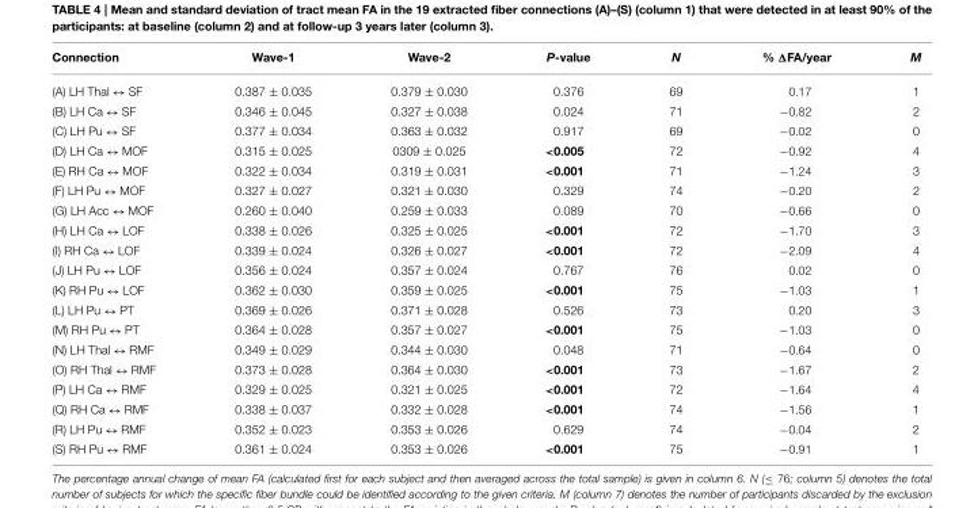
<table><thead><tr><td>Connection</td><td>Wave-1</td><td>Wave-2</td><td>P-value</td><td>N</td><td>% ΔFA/year</td><td>M</td></tr></thead><tbody><tr><td>(A) LH Thal ↔ SF</td><td>0.387 ± 0.035</td><td>0.379 ± 0.030</td><td>0.376</td><td>69</td><td>0.17</td><td>1</td></tr><tr><td>(B) LH Ca ↔ SF</td><td>0.346 ± 0.045</td><td>0.327 ± 0.038</td><td>0.024</td><td>71</td><td>−0.82</td><td>2</td></tr><tr><td>(C) LH Pu ↔ SF</td><td>0.377 ± 0.034</td><td>0.363 ± 0.032</td><td>0.917</td><td>69</td><td>−0.02</td><td>0</td></tr><tr><td>(D) LH Ca ↔ MOF</td><td>0.315 ± 0.025</td><td>0309 ± 0.025</td><td>&lt;0.005</td><td>72</td><td>−0.92</td><td>4</td></tr><tr><td>(E) RH Ca ↔ MOF</td><td>0.322 ± 0.034</td><td>0.319 ± 0.031</td><td>&lt;0.001</td><td>71</td><td>−1.24</td><td>3</td></tr><tr><td>(F) LH Pu ↔ MOF</td><td>0.327 ± 0.027</td><td>0.321 ± 0.030</td><td>0.329</td><td>74</td><td>−0.20</td><td>2</td></tr><tr><td>(G) LH Acc ↔ MOF</td><td>0.260 ± 0.040</td><td>0.259 ± 0.033</td><td>0.089</td><td>70</td><td>−0.66</td><td>0</td></tr><tr><td>(H) LH Ca ↔ LOF</td><td>0.338 ± 0.026</td><td>0.325 ± 0.025</td><td>&lt;0.001</td><td>72</td><td>−1.70</td><td>3</td></tr><tr><td>(I) RH Ca ↔ LOF</td><td>0.339 ± 0.024</td><td>0.326 ± 0.027</td><td>&lt;0.001</td><td>72</td><td>−2.09</td><td>4</td></tr><tr><td>(J) LH Pu ↔ LOF</td><td>0.356 ± 0.024</td><td>0.357 ± 0.024</td><td>0.767</td><td>76</td><td>0.02</td><td>0</td></tr><tr><td>(K) RH Pu ↔ LOF</td><td>0.362 ± 0.030</td><td>0.359 ± 0.025</td><td>&lt;0.001</td><td>75</td><td>−1.03</td><td>1</td></tr><tr><td>(L) LH Pu ↔ PT</td><td>0.369 ± 0.026</td><td>0.371 ± 0.028</td><td>0.526</td><td>73</td><td>0.20</td><td>3</td></tr><tr><td>(M) RH Pu ↔ PT</td><td>0.364 ± 0.028</td><td>0.357 ± 0.027</td><td>&lt;0.001</td><td>75</td><td>−1.03</td><td>0</td></tr><tr><td>(N) LH Thal ↔ RMF</td><td>0.349 ± 0.029</td><td>0.344 ± 0.030</td><td>0.048</td><td>71</td><td>−0.64</td><td>0</td></tr><tr><td>(O) RH Thal ↔ RMF</td><td>0.373 ± 0.028</td><td>0.364 ± 0.030</td><td>&lt;0.001</td><td>73</td><td>−1.67</td><td>2</td></tr><tr><td>(P) LH Ca ↔ RMF</td><td>0.329 ± 0.025</td><td>0.321 ± 0.025</td><td>&lt;0.001</td><td>72</td><td>−1.64</td><td>4</td></tr><tr><td>(Q) RH Ca ↔ RMF</td><td>0.338 ± 0.037</td><td>0.332 ± 0.028</td><td>&lt;0.001</td><td>74</td><td>−1.56</td><td>1</td></tr><tr><td>(R) LH Pu ↔ RMF</td><td>0.352 ± 0.023</td><td>0.353 ± 0.026</td><td>0.629</td><td>74</td><td>−0.04</td><td>2</td></tr><tr><td>(S) RH Pu ↔ RMF</td><td>0.361 ± 0.024</td><td>0.353 ± 0.026</td><td>&lt;0.001</td><td>75</td><td>−0.91</td><td>1</td></tr></tbody></table>